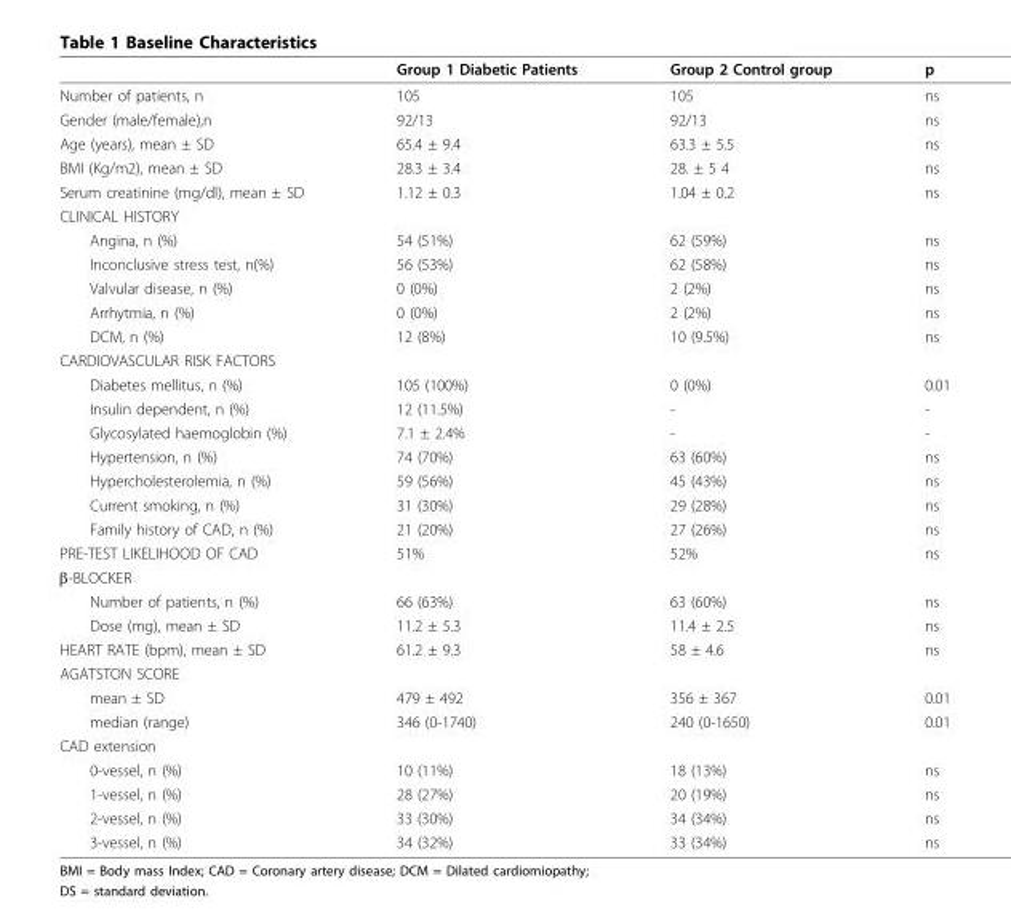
<table><thead><tr><td></td><td>Group 1 Diabetic Patients</td><td>Group 2 Control group</td><td>p</td></tr></thead><tbody><tr><td>Number of patients, n</td><td>105</td><td>105</td><td>ns</td></tr><tr><td>Gender (male/female),n</td><td>92/13</td><td>92/13</td><td>ns</td></tr><tr><td>Age (years), mean ± SD</td><td>65.4 ± 9.4</td><td>63.3 ± 5.5</td><td>ns</td></tr><tr><td>BMI (Kg/m2), mean ± SD</td><td>28.3 ± 3.4</td><td>28. ± 5 4</td><td>ns</td></tr><tr><td>Serum creatinine (mg/dl), mean ± SD</td><td>1.12 ± 0.3</td><td>1.04 ± 0.2</td><td>ns</td></tr><tr><td colspan="4">CLINICAL HISTORY</td></tr><tr><td>Angina, n (%)</td><td>54 (51%)</td><td>62 (59%)</td><td>ns</td></tr><tr><td>Inconclusive stress test, n(%)</td><td>56 (53%)</td><td>62 (58%)</td><td>ns</td></tr><tr><td>Valvular disease, n (%)</td><td>0 (0%)</td><td>2 (2%)</td><td>ns</td></tr><tr><td>Arrhytmia, n (%)</td><td>0 (0%)</td><td>2 (2%)</td><td>ns</td></tr><tr><td>DCM, n (%)</td><td>12 (8%)</td><td>10 (9.5%)</td><td>ns</td></tr><tr><td colspan="4">CARDIOVASCULAR RISK FACTORS</td></tr><tr><td>Diabetes mellitus, n (%)</td><td>105 (100%)</td><td>0 (0%)</td><td>0.01</td></tr><tr><td>Insulin dependent, n (%)</td><td>12 (11.5%)</td><td>-</td><td>-</td></tr><tr><td>Glycosylated haemoglobin (%)</td><td>7.1 ± 2.4%</td><td>-</td><td>-</td></tr><tr><td>Hypertension, n (%)</td><td>74 (70%)</td><td>63 (60%)</td><td>ns</td></tr><tr><td>Hypercholesterolemia, n (%)</td><td>59 (56%)</td><td>45 (43%)</td><td>ns</td></tr><tr><td>Current smoking, n (%)</td><td>31 (30%)</td><td>29 (28%)</td><td>ns</td></tr><tr><td>Family history of CAD, n (%)</td><td>21 (20%)</td><td>27 (26%)</td><td>ns</td></tr><tr><td>PRE-TEST LIKELIHOOD OF CAD</td><td>51%</td><td>52%</td><td>ns</td></tr><tr><td colspan="4">β-BLOCKER</td></tr><tr><td>Number of patients, n (%)</td><td>66 (63%)</td><td>63 (60%)</td><td>ns</td></tr><tr><td>Dose (mg), mean ± SD</td><td>11.2 ± 5.3</td><td>11.4 ± 2.5</td><td>ns</td></tr><tr><td>HEART RATE (bpm), mean ± SD</td><td>61.2 ± 9.3</td><td>58 ± 4.6</td><td>ns</td></tr><tr><td colspan="4">AGATSTON SCORE</td></tr><tr><td>mean ± SD</td><td>479 ± 492</td><td>356 ± 367</td><td>0.01</td></tr><tr><td>median (range)</td><td>346 (0-1740)</td><td>240 (0-1650)</td><td>0.01</td></tr><tr><td colspan="4">CAD extension</td></tr><tr><td>0-vessel, n (%)</td><td>10 (11%)</td><td>18 (13%)</td><td>ns</td></tr><tr><td>1-vessel, n (%)</td><td>28 (27%)</td><td>20 (19%)</td><td>ns</td></tr><tr><td>2-vessel, n (%)</td><td>33 (30%)</td><td>34 (34%)</td><td>ns</td></tr><tr><td>3-vessel, n (%)</td><td>34 (32%)</td><td>33 (34%)</td><td>ns</td></tr></tbody></table>